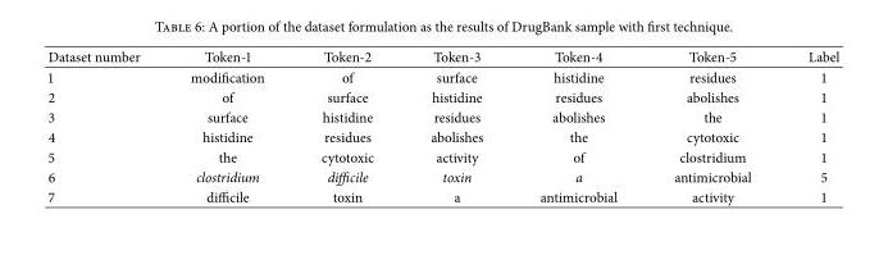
<table><thead><tr><td>Dataset number</td><td>Token-1</td><td>Token-2</td><td>Token-3</td><td>Token-4</td><td>Token-5</td><td>Label</td></tr></thead><tbody><tr><td>1</td><td>modification</td><td>of</td><td>surface</td><td>histidine</td><td>residues</td><td>1</td></tr><tr><td>2</td><td>of</td><td>surface</td><td>histidine</td><td>residues</td><td>abolishes</td><td>1</td></tr><tr><td>3</td><td>surface</td><td>histidine</td><td>residues</td><td>abolishes</td><td>the</td><td>1</td></tr><tr><td>4</td><td>histidine</td><td>residues</td><td>abolishes</td><td>the</td><td>cytotoxic</td><td>1</td></tr><tr><td>5</td><td>the</td><td>cytotoxic</td><td>activity</td><td>of</td><td>clostridium</td><td>1</td></tr><tr><td>6</td><td>clostridium</td><td>difficile</td><td>toxin</td><td>a</td><td>antimicrobial</td><td>5</td></tr><tr><td>7</td><td>difficile</td><td>toxin</td><td>a</td><td>antimicrobial</td><td>activity</td><td>1</td></tr></tbody></table>